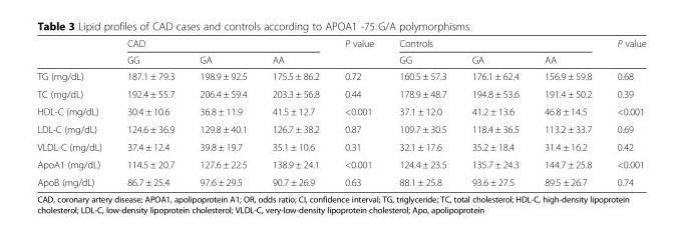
<table><thead><tr><td rowspan="2"></td><td colspan="3">CAD</td><td rowspan="2">P value</td><td colspan="3">Controls</td><td rowspan="2">P value</td></tr><tr><td>GG</td><td>GA</td><td>AA</td><td>GG</td><td>GA</td><td>AA</td></tr></thead><tbody><tr><td>TG (mg/dL)</td><td>187.1 ± 79.3</td><td>198.9 ± 92.5</td><td>175.5 ± 86.2</td><td>0.72</td><td>160.5 ± 57.3</td><td>176.1 ± 62.4</td><td>156.9 ± 59.8</td><td>0.68</td></tr><tr><td>TC (mg/dL)</td><td>192.4 ± 55.7</td><td>206.4 ± 59.4</td><td>203.3 ± 56.8</td><td>0.44</td><td>178.9 ± 48.7</td><td>194.8 ± 53.6</td><td>191.4 ± 50.2</td><td>0.39</td></tr><tr><td>HDL-C (mg/dL)</td><td>30.4 ± 10.6</td><td>36.8 ± 11.9</td><td>41.5 ± 12.7</td><td>&lt;0.001</td><td>37.1 ± 12.0</td><td>41.2 ± 13.6</td><td>46.8 ± 14.5</td><td>&lt;0.001</td></tr><tr><td>LDL-C (mg/dL)</td><td>124.6 ± 36.9</td><td>129.8 ± 40.1</td><td>126.7 ± 38.2</td><td>0.87</td><td>109.7 ± 30.5</td><td>118.4 ± 36.5</td><td>113.2 ± 33.7</td><td>0.69</td></tr><tr><td>VLDL-C (mg/dL)</td><td>37.4 ± 12.4</td><td>39.8 ± 19.7</td><td>35.1 ± 10.6</td><td>0.31</td><td>32.1 ± 17.6</td><td>35.2 ± 18.4</td><td>31.4 ± 16.2</td><td>0.42</td></tr><tr><td>ApoA1 (mg/dL)</td><td>114.5 ± 20.7</td><td>127.6 ± 22.5</td><td>138.9 ± 24.1</td><td>&lt;0.001</td><td>124.4 ± 23.5</td><td>135.7 ± 24.3</td><td>144.7 ± 25.8</td><td>&lt;0.001</td></tr><tr><td>ApoB (mg/dL)</td><td>86.7 ± 25.4</td><td>97.6 ± 29.5</td><td>90.7 ± 26.9</td><td>0.63</td><td>88.1 ± 25.8</td><td>93.6 ± 27.5</td><td>89.5 ± 26.7</td><td>0.74</td></tr></tbody></table>